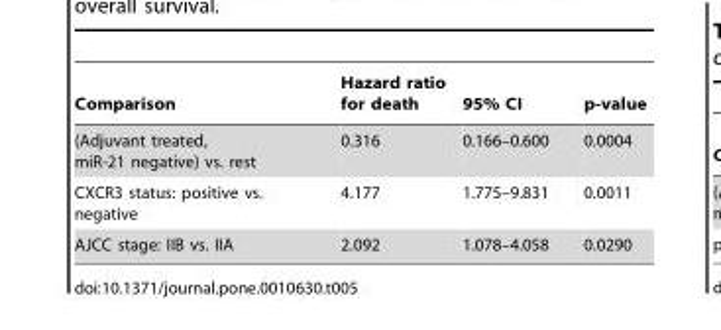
<table><thead><tr><td>Comparison</td><td>Hazard ratio for death</td><td>95% CI</td><td>p-value</td></tr></thead><tbody><tr><td>(Adjuvant treated, miR-21 negative) vs. rest</td><td>0.316</td><td>0.166–0.600</td><td>0.0004</td></tr><tr><td>CXCR3 status: positive vs. negative</td><td>4.177</td><td>1.775–9.831</td><td>0.0011</td></tr><tr><td>AJCC stage: IIB vs. IIA</td><td>2.092</td><td>1.078–4.058</td><td>0.0290</td></tr></tbody></table>